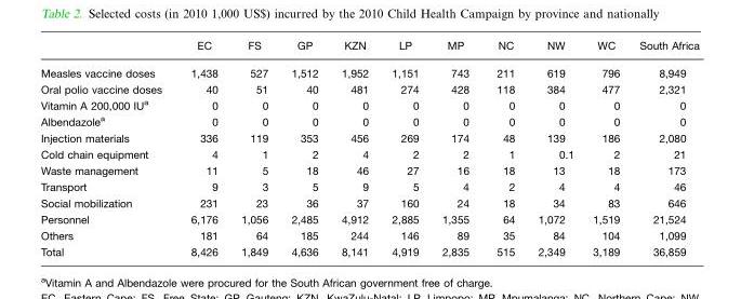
<table><thead><tr><td></td><td>EC</td><td>FS</td><td>GP</td><td>KZN</td><td>LP</td><td>MP</td><td>NC</td><td>NW</td><td>WC</td><td>South Africa</td></tr></thead><tbody><tr><td>Measles vaccine doses</td><td>1,438</td><td>527</td><td>1,512</td><td>1,952</td><td>1,151</td><td>743</td><td>211</td><td>619</td><td>796</td><td>8,949</td></tr><tr><td>Oral polio vaccine doses</td><td>40</td><td>51</td><td>40</td><td>481</td><td>274</td><td>428</td><td>118</td><td>384</td><td>477</td><td>2,321</td></tr><tr><td>Vitamin A 200,000 IU<sup>a</sup></td><td>0</td><td>0</td><td>0</td><td>0</td><td>0</td><td>0</td><td>0</td><td>0</td><td>0</td><td>0</td></tr><tr><td>Albendazole<sup>a</sup></td><td>0</td><td>0</td><td>0</td><td>0</td><td>0</td><td>0</td><td>0</td><td>0</td><td>0</td><td>0</td></tr><tr><td>Injection materials</td><td>336</td><td>119</td><td>353</td><td>456</td><td>269</td><td>174</td><td>48</td><td>139</td><td>186</td><td>2,080</td></tr><tr><td>Cold chain equipment</td><td>4</td><td>1</td><td>2</td><td>4</td><td>2</td><td>2</td><td>1</td><td>0.1</td><td>2</td><td>21</td></tr><tr><td>Waste management</td><td>11</td><td>5</td><td>18</td><td>46</td><td>27</td><td>16</td><td>18</td><td>13</td><td>18</td><td>173</td></tr><tr><td>Transport</td><td>9</td><td>3</td><td>5</td><td>9</td><td>5</td><td>4</td><td>2</td><td>4</td><td>4</td><td>46</td></tr><tr><td>Social mobilization</td><td>231</td><td>23</td><td>36</td><td>37</td><td>160</td><td>24</td><td>18</td><td>34</td><td>83</td><td>646</td></tr><tr><td>Personnel</td><td>6,176</td><td>1,056</td><td>2,485</td><td>4,912</td><td>2,885</td><td>1,355</td><td>64</td><td>1,072</td><td>1,519</td><td>21,524</td></tr><tr><td>Others</td><td>181</td><td>64</td><td>185</td><td>244</td><td>146</td><td>89</td><td>35</td><td>84</td><td>104</td><td>1,099</td></tr><tr><td>Total</td><td>8,426</td><td>1,849</td><td>4,636</td><td>8,141</td><td>4,919</td><td>2,835</td><td>515</td><td>2,349</td><td>3,189</td><td>36,859</td></tr></tbody></table>